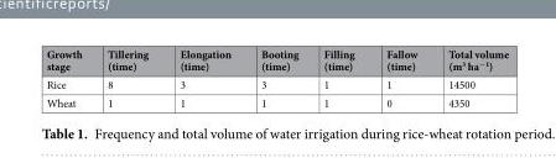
<table><thead><tr><td>Growth stage</td><td>Tillering (time)</td><td>Elongation (time)</td><td>Booting (time)</td><td>Filling (time)</td><td>Fallow (time)</td><td>Total volume (m<sup>3</sup> ha<sup>−1</sup>)</td></tr></thead><tbody><tr><td>Rice</td><td>8</td><td>3</td><td>3</td><td>1</td><td>1</td><td>14500</td></tr><tr><td>Wheat</td><td>1</td><td>1</td><td>1</td><td>1</td><td>0</td><td>4350</td></tr></tbody></table>